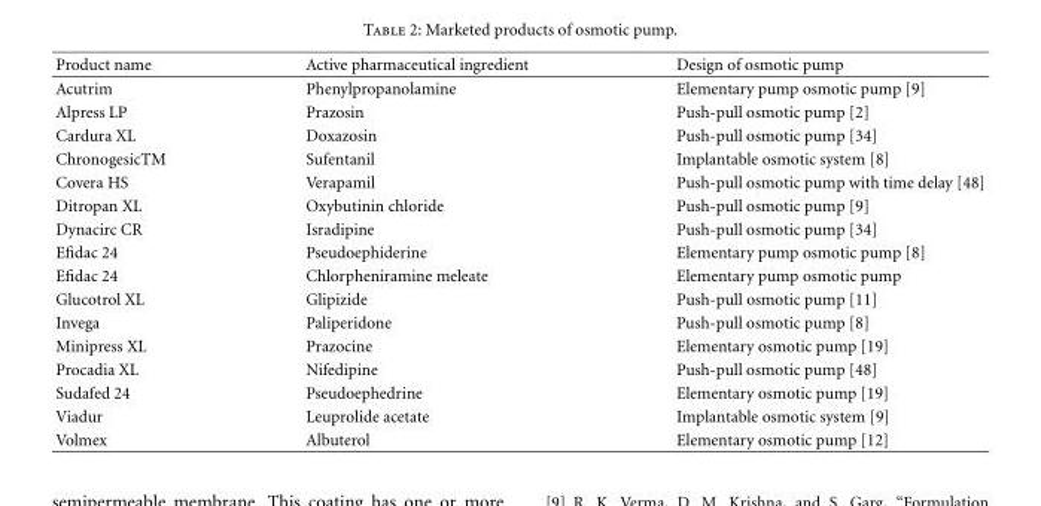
<table><thead><tr><td>Product name</td><td>Active pharmaceutical ingredient</td><td>Design of osmotic pump</td></tr></thead><tbody><tr><td>Acutrim</td><td>Phenylpropanolamine</td><td>Elementary pump osmotic pump [9]</td></tr><tr><td>Alpress LP</td><td>Prazosin</td><td>Push-pull osmotic pump [2]</td></tr><tr><td>Cardura XL</td><td>Doxazosin</td><td>Push-pull osmotic pump [34]</td></tr><tr><td>ChronogesicTM</td><td>Sufentanil</td><td>Implantable osmotic system [8]</td></tr><tr><td>Covera HS</td><td>Verapamil</td><td>Push-pull osmotic pump with time delay [48]</td></tr><tr><td>Ditropan XL</td><td>Oxybutinin chloride</td><td>Push-pull osmotic pump [9]</td></tr><tr><td>Dynacirc CR</td><td>Isradipine</td><td>Push-pull osmotic pump [34]</td></tr><tr><td>Efidac 24</td><td>Pseudoephiderine</td><td>Elementary pump osmotic pump [8]</td></tr><tr><td>Efidac 24</td><td>Chlorpheniramine meleate</td><td>Elementary pump osmotic pump</td></tr><tr><td>Glucotrol XL</td><td>Glipizide</td><td>Push-pull osmotic pump [11]</td></tr><tr><td>Invega</td><td>Paliperidone</td><td>Push-pull osmotic pump [8]</td></tr><tr><td>Minipress XL</td><td>Prazocine</td><td>Elementary osmotic pump [19]</td></tr><tr><td>Procadia XL</td><td>Nifedipine</td><td>Push-pull osmotic pump [48]</td></tr><tr><td>Sudafed 24</td><td>Pseudoephedrine</td><td>Elementary osmotic pump [19]</td></tr><tr><td>Viadur</td><td>Leuprolide acetate</td><td>Implantable osmotic system [9]</td></tr><tr><td>Volmex</td><td>Albuterol</td><td>Elementary osmotic pump [12]</td></tr></tbody></table>